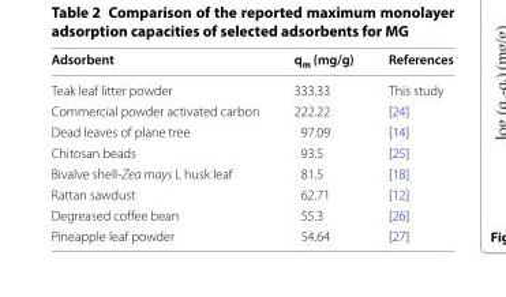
<table><thead><tr><td>Adsorbent</td><td>q<sub>m</sub> (mg/g)</td><td>References</td></tr></thead><tbody><tr><td>Teak leaf litter powder</td><td>333.33</td><td>This study</td></tr><tr><td>Commercial powder activated carbon</td><td>222.22</td><td>[24]</td></tr><tr><td>Dead leaves of plane tree</td><td>97.09</td><td>[14]</td></tr><tr><td>Chitosan beads</td><td>93.5</td><td>[25]</td></tr><tr><td>Bivalve shell-Zea mays L husk leaf</td><td>81.5</td><td>[18]</td></tr><tr><td>Rattan sawdust</td><td>62.71</td><td>[12]</td></tr><tr><td>Degreased coffee bean</td><td>55.3</td><td>[26]</td></tr><tr><td>Pineapple leaf powder</td><td>54.64</td><td>[27]</td></tr></tbody></table>